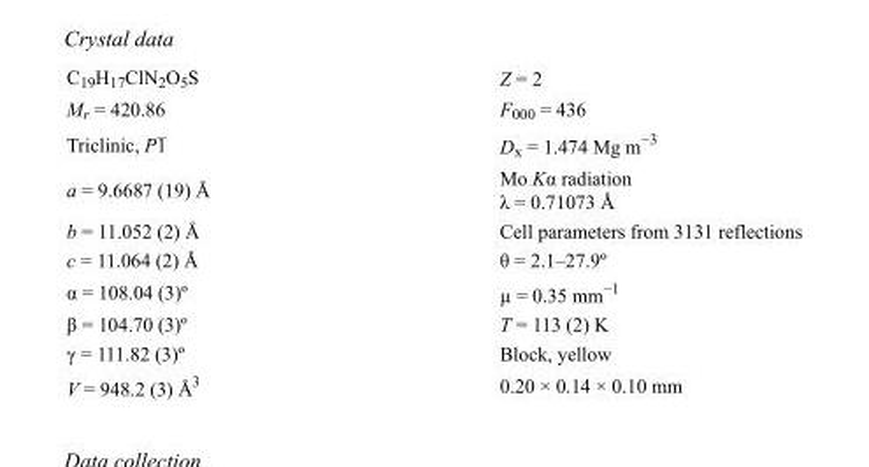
<table><tbody><tr><td>C<sub>19</sub>H<sub>17</sub>ClN<sub>2</sub>O<sub>5</sub>S</td><td>Z = 2</td></tr><tr><td>M<sub>r</sub> = 420.86</td><td>F000 = 436</td></tr><tr><td>Triclinic, P1</td><td>D<sub>x</sub> = 1.474 Mg m<sup>−3</sup></td></tr><tr><td>a = 9.6687 (19) Å</td><td>Mo Kα radiation λ = 0.71073 Å</td></tr><tr><td>b = 11.052 (2) Å</td><td>Cell parameters from 3131 reflections</td></tr><tr><td>c = 11.064 (2) Å</td><td>θ = 2.1–27.9º</td></tr><tr><td>α = 108.04 (3)º</td><td>µ = 0.35 mm<sup>−1</sup></td></tr><tr><td>β = 104.70 (3)º</td><td>T = 113 (2) K</td></tr><tr><td>γ = 111.82 (3)º</td><td>Block, yellow</td></tr><tr><td>V = 948.2 (3) Å<sup>3</sup></td><td>0.20 × 0.14 × 0.10 mm</td></tr></tbody></table>